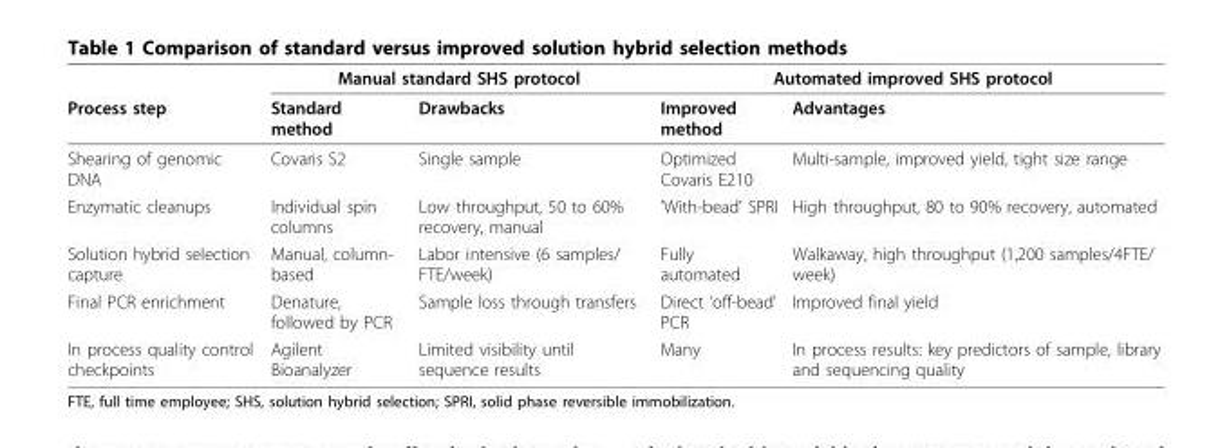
<table><thead><tr><td rowspan="2">Process step</td><td colspan="2">Manual standard SHS protocol</td><td colspan="2">Automated improved SHS protocol</td></tr><tr><td>Standard method</td><td>Drawbacks</td><td>Improved method</td><td>Advantages</td></tr></thead><tbody><tr><td>Shearing of genomic DNA</td><td>Covaris S2</td><td>Single sample</td><td>Optimized Covaris E210</td><td>Multi-sample, improved yield, tight size range</td></tr><tr><td>Enzymatic cleanups</td><td>Individual spin columns</td><td>Low throughput, 50 to 60% recovery, manual</td><td>’With-bead’ SPRI</td><td>High throughput, 80 to 90% recovery, automated</td></tr><tr><td>Solution hybrid selection capture</td><td>Manual, column- based</td><td>Labor intensive (6 samples/ FTE/week)</td><td>Fully automated</td><td>Walkaway, high throughput (1,200 samples/4FTE/ week)</td></tr><tr><td>Final PCR enrichment</td><td>Denature, followed by PCR</td><td>Sample loss through transfers</td><td>Direct ‘off-bead’ PCR</td><td>Improved final yield</td></tr><tr><td>In process quality control checkpoints</td><td>Agilent Bioanalyzer</td><td>Limited visibility until sequence results</td><td>Many</td><td>In process results: key predictors of sample, library and sequencing quality</td></tr></tbody></table>